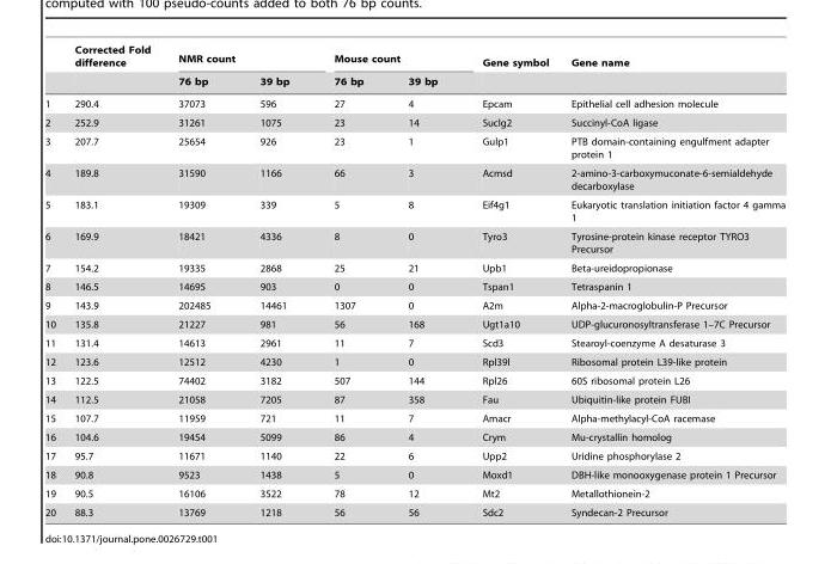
<table><thead><tr><td rowspan="2"></td><td rowspan="2">Corrected Fold difference</td><td colspan="2">NMR count</td><td colspan="2">Mouse count</td><td rowspan="2">Gene symbol</td><td rowspan="2">Gene name</td></tr><tr><td>76 bp</td><td>39 bp</td><td>76 bp</td><td>39 bp</td></tr></thead><tbody><tr><td>1</td><td>290.4</td><td>37073</td><td>596</td><td>27</td><td>4</td><td>Epcam</td><td>Epithelial cell adhesion molecule</td></tr><tr><td>2</td><td>252.9</td><td>31261</td><td>1075</td><td>23</td><td>14</td><td>Suclg2</td><td>Succinyl-CoA ligase</td></tr><tr><td>3</td><td>207.7</td><td>25654</td><td>926</td><td>23</td><td>1</td><td>Gulp1</td><td>PTB domain-containing engulfment adapter protein 1</td></tr><tr><td>4</td><td>189.8</td><td>31590</td><td>1166</td><td>66</td><td>3</td><td>Acmsd</td><td>2-amino-3-carboxymuconate-6-semialdehyde decarboxylase</td></tr><tr><td>5</td><td>183.1</td><td>19309</td><td>339</td><td>5</td><td>8</td><td>Eif4g1</td><td>Eukaryotic translation initiation factor 4 gamma 1</td></tr><tr><td>6</td><td>169.9</td><td>18421</td><td>4336</td><td>8</td><td>0</td><td>Tyro3</td><td>Tyrosine-protein kinase receptor TYRO3 Precursor</td></tr><tr><td>7</td><td>154.2</td><td>19335</td><td>2868</td><td>25</td><td>21</td><td>Upb1</td><td>Beta-ureidopropionase</td></tr><tr><td>8</td><td>146.5</td><td>14695</td><td>903</td><td>0</td><td>0</td><td>Tspan1</td><td>Tetraspanin 1</td></tr><tr><td>9</td><td>143.9</td><td>202485</td><td>14461</td><td>1307</td><td>0</td><td>A2m</td><td>Alpha-2-macroglobulin-P Precursor</td></tr><tr><td>10</td><td>135.8</td><td>21227</td><td>981</td><td>56</td><td>168</td><td>Ugt1a10</td><td>UDP-glucuronosyltransferase 1–7C Precursor</td></tr><tr><td>11</td><td>131.4</td><td>14613</td><td>2961</td><td>11</td><td>7</td><td>Scd3</td><td>Stearoyl-coenzyme A desaturase 3</td></tr><tr><td>12</td><td>123.6</td><td>12512</td><td>4230</td><td>1</td><td>0</td><td>Rpl39l</td><td>Ribosomal protein L39-like protein</td></tr><tr><td>13</td><td>122.5</td><td>74402</td><td>3182</td><td>507</td><td>144</td><td>Rpl26</td><td>60S ribosomal protein L26</td></tr><tr><td>14</td><td>112.5</td><td>21058</td><td>7205</td><td>87</td><td>358</td><td>Fau</td><td>Ubiquitin-like protein FUBI</td></tr><tr><td>15</td><td>107.7</td><td>11959</td><td>721</td><td>11</td><td>7</td><td>Amacr</td><td>Alpha-methylacyl-CoA racemase</td></tr><tr><td>16</td><td>104.6</td><td>19454</td><td>5099</td><td>86</td><td>4</td><td>Crym</td><td>Mu-crystallin homolog</td></tr><tr><td>17</td><td>95.7</td><td>11671</td><td>1140</td><td>22</td><td>6</td><td>Upp2</td><td>Uridine phosphorylase 2</td></tr><tr><td>18</td><td>90.8</td><td>9523</td><td>1438</td><td>5</td><td>0</td><td>Moxd1</td><td>DBH-like monooxygenase protein 1 Precursor</td></tr><tr><td>19</td><td>90.5</td><td>16106</td><td>3522</td><td>78</td><td>12</td><td>Mt2</td><td>Metallothionein-2</td></tr><tr><td>20</td><td>88.3</td><td>13769</td><td>1218</td><td>56</td><td>56</td><td>Sdc2</td><td>Syndecan-2 Precursor</td></tr></tbody></table>